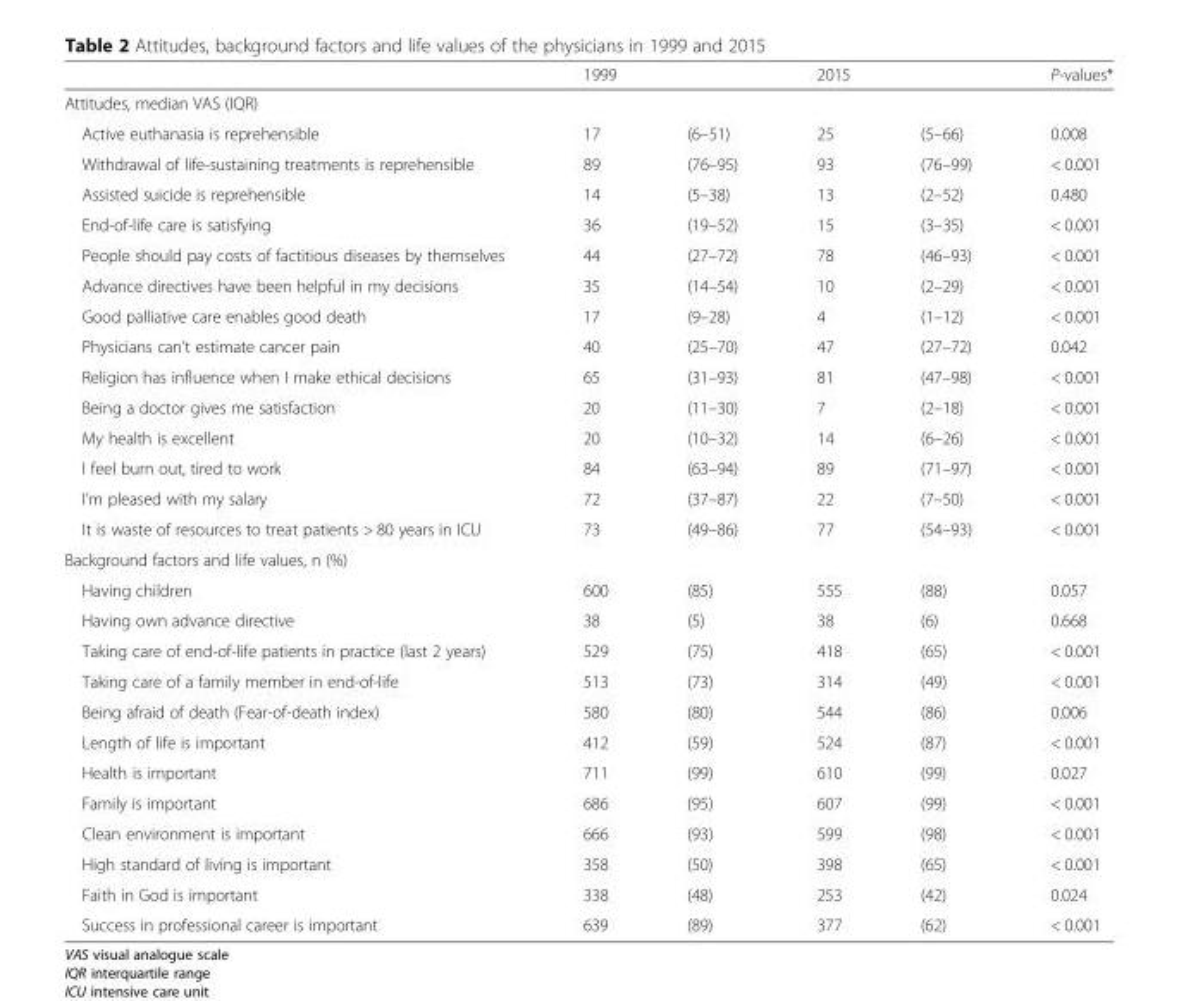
<table><thead><tr><td></td><td colspan="2">1999</td><td colspan="2">2015</td><td>P-values*</td></tr><tr><td colspan="6">Attitudes, median VAS (IQR)</td></tr><tr><td>Active euthanasia is reprehensible</td><td>17</td><td>(6–51)</td><td>25</td><td>(5–66)</td><td>0.008</td></tr></thead><tbody><tr><td>Withdrawal of life-sustaining treatments is reprehensible</td><td>89</td><td>(76–95)</td><td>93</td><td>(76–99)</td><td>&lt; 0.001</td></tr><tr><td>Assisted suicide is reprehensible</td><td>14</td><td>(5–38)</td><td>13</td><td>(2–52)</td><td>0.480</td></tr><tr><td>End-of-life care is satisfying</td><td>36</td><td>(19–52)</td><td>15</td><td>(3–35)</td><td>&lt; 0.001</td></tr><tr><td>People should pay costs of factitious diseases by themselves</td><td>44</td><td>(27–72)</td><td>78</td><td>(46–93)</td><td>&lt; 0.001</td></tr><tr><td>Advance directives have been helpful in my decisions</td><td>35</td><td>(14–54)</td><td>10</td><td>(2–29)</td><td>&lt; 0.001</td></tr><tr><td>Good palliative care enables good death</td><td>17</td><td>(9–28)</td><td>4</td><td>(1–12)</td><td>&lt; 0.001</td></tr><tr><td>Physicians can’t estimate cancer pain</td><td>40</td><td>(25–70)</td><td>47</td><td>(27–72)</td><td>0.042</td></tr><tr><td>Religion has influence when I make ethical decisions</td><td>65</td><td>(31–93)</td><td>81</td><td>(47–98)</td><td>&lt; 0.001</td></tr><tr><td>Being a doctor gives me satisfaction</td><td>20</td><td>(11–30)</td><td>7</td><td>(2–18)</td><td>&lt; 0.001</td></tr><tr><td>My health is excellent</td><td>20</td><td>(10–32)</td><td>14</td><td>(6–26)</td><td>&lt; 0.001</td></tr><tr><td>I feel burn out, tired to work</td><td>84</td><td>(63–94)</td><td>89</td><td>(71–97)</td><td>&lt; 0.001</td></tr><tr><td>I’m pleased with my salary</td><td>72</td><td>(37–87)</td><td>22</td><td>(7–50)</td><td>&lt; 0.001</td></tr><tr><td>It is waste of resources to treat patients &gt; 80 years in ICU</td><td>73</td><td>(49–86)</td><td>77</td><td>(54–93)</td><td>&lt; 0.001</td></tr><tr><td colspan="6">Background factors and life values, n (%)</td></tr><tr><td>Having children</td><td>600</td><td>(85)</td><td>555</td><td>(88)</td><td>0.057</td></tr><tr><td>Having own advance directive</td><td>38</td><td>(5)</td><td>38</td><td>(6)</td><td>0.668</td></tr><tr><td>Taking care of end-of-life patients in practice (last 2 years)</td><td>529</td><td>(75)</td><td>418</td><td>(65)</td><td>&lt; 0.001</td></tr><tr><td>Taking care of a family member in end-of-life</td><td>513</td><td>(73)</td><td>314</td><td>(49)</td><td>&lt; 0.001</td></tr><tr><td>Being afraid of death (Fear-of-death index)</td><td>580</td><td>(80)</td><td>544</td><td>(86)</td><td>0.006</td></tr><tr><td>Length of life is important</td><td>412</td><td>(59)</td><td>524</td><td>(87)</td><td>&lt; 0.001</td></tr><tr><td>Health is important</td><td>711</td><td>(99)</td><td>610</td><td>(99)</td><td>0.027</td></tr><tr><td>Family is important</td><td>686</td><td>(95)</td><td>607</td><td>(99)</td><td>&lt; 0.001</td></tr><tr><td>Clean environment is important</td><td>666</td><td>(93)</td><td>599</td><td>(98)</td><td>&lt; 0.001</td></tr><tr><td>High standard of living is important</td><td>358</td><td>(50)</td><td>398</td><td>(65)</td><td>&lt; 0.001</td></tr><tr><td>Faith in God is important</td><td>338</td><td>(48)</td><td>253</td><td>(42)</td><td>0.024</td></tr><tr><td>Success in professional career is important</td><td>639</td><td>(89)</td><td>377</td><td>(62)</td><td>&lt; 0.001</td></tr></tbody></table>